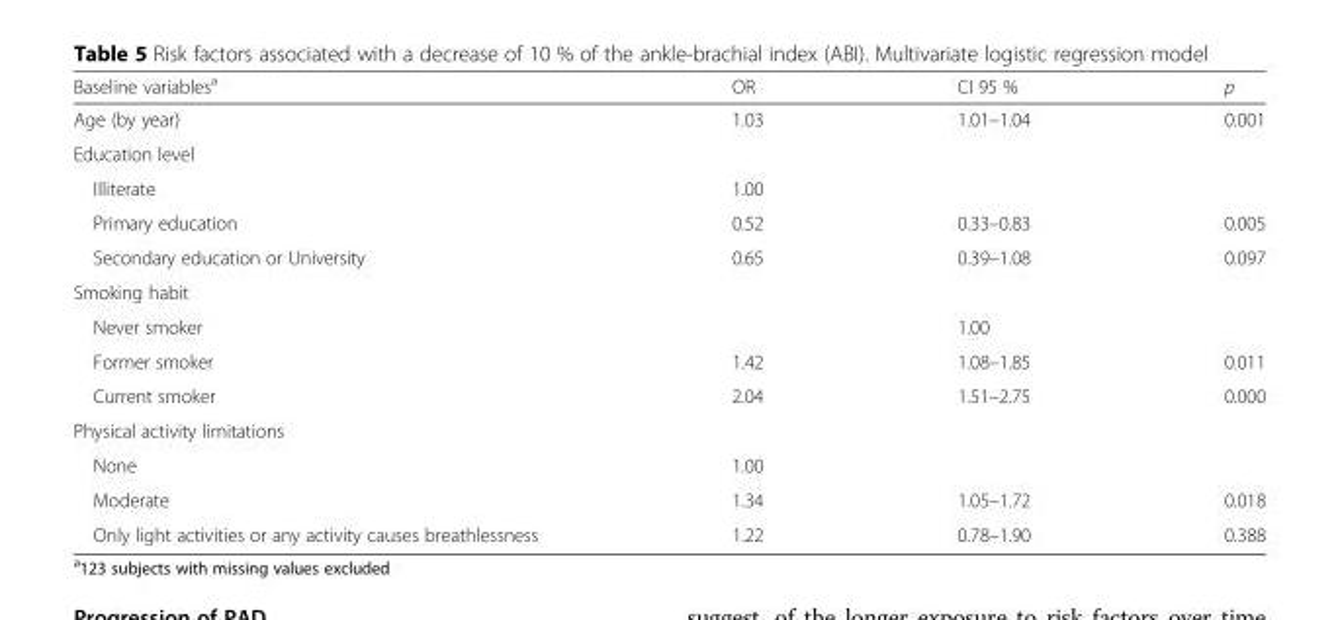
<table><thead><tr><td>Baseline variables<sup>a</sup></td><td>OR</td><td>CI 95 %</td><td>p</td></tr></thead><tbody><tr><td>Age (by year)</td><td>1.03</td><td>1.01–1.04</td><td>0.001</td></tr><tr><td colspan="4">Education level</td></tr><tr><td>Illiterate</td><td>1.00</td><td></td><td></td></tr><tr><td>Primary education</td><td>0.52</td><td>0.33–0.83</td><td>0.005</td></tr><tr><td>Secondary education or University</td><td>0.65</td><td>0.39–1.08</td><td>0.097</td></tr><tr><td colspan="4">Smoking habit</td></tr><tr><td>Never smoker</td><td></td><td>1.00</td><td></td></tr><tr><td>Former smoker</td><td>1.42</td><td>1.08–1.85</td><td>0.011</td></tr><tr><td>Current smoker</td><td>2.04</td><td>1.51–2.75</td><td>0.000</td></tr><tr><td colspan="4">Physical activity limitations</td></tr><tr><td>None</td><td>1.00</td><td></td><td></td></tr><tr><td>Moderate</td><td>1.34</td><td>1.05–1.72</td><td>0.018</td></tr><tr><td>Only light activities or any activity causes breathlessness</td><td>1.22</td><td>0.78–1.90</td><td>0.388</td></tr></tbody></table>